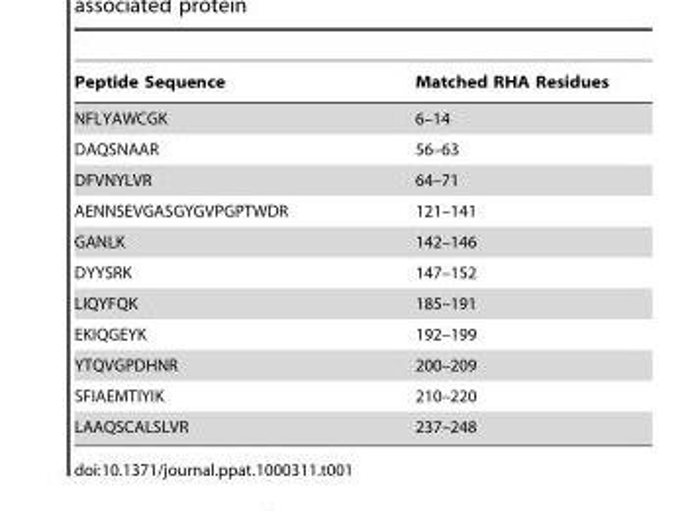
<table><thead><tr><td>Peptide Sequence</td><td>Matched RHA Residues</td></tr></thead><tbody><tr><td>NFLYAWCGK</td><td>6–14</td></tr><tr><td>DAQSNAAR</td><td>56–63</td></tr><tr><td>DFVNYLVR</td><td>64–71</td></tr><tr><td>AENNSEVGASGYGVPGPTWDR</td><td>121–141</td></tr><tr><td>GANLK</td><td>142–146</td></tr><tr><td>DYYSRK</td><td>147–152</td></tr><tr><td>LIQYFQK</td><td>185–191</td></tr><tr><td>EKIQGEYK</td><td>192–199</td></tr><tr><td>YTQVGPDHNR</td><td>200–209</td></tr><tr><td>SFIAEMTIYIK</td><td>210–220</td></tr><tr><td>LAAQSCALSLVR</td><td>237–248</td></tr></tbody></table>